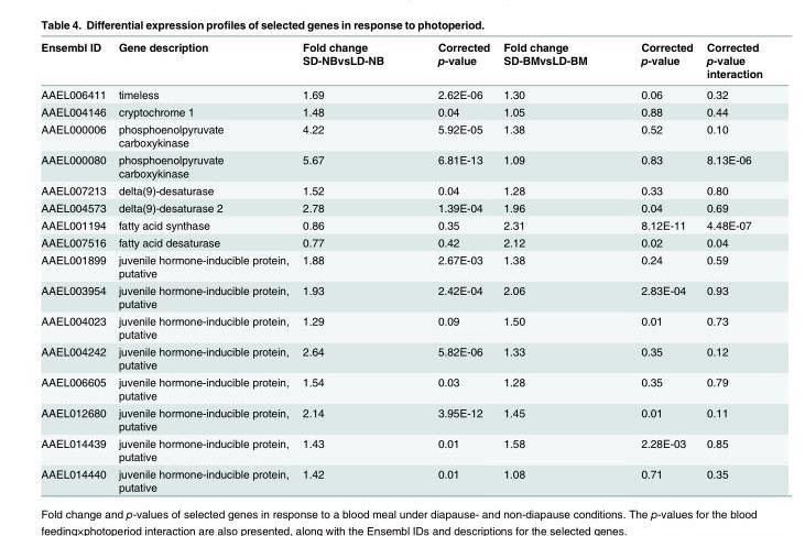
<table><thead><tr><td>Ensembl ID</td><td>Gene description</td><td>Fold change SD-NBvsLD-NB</td><td>Corrected p-value</td><td>Fold change SD-BMvsLD-BM</td><td>Corrected p-value</td><td>Corrected p-value interaction</td></tr></thead><tbody><tr><td>AAEL006411</td><td>timeless</td><td>1.69</td><td>2.62E-06</td><td>1.30</td><td>0.06</td><td>0.32</td></tr><tr><td>AAEL004146</td><td>cryptochrome 1</td><td>1.48</td><td>0.04</td><td>1.05</td><td>0.88</td><td>0.44</td></tr><tr><td>AAEL000006</td><td>phosphoenolpyruvate carboxykinase</td><td>4.22</td><td>5.92E-05</td><td>1.38</td><td>0.52</td><td>0.10</td></tr><tr><td>AAEL000080</td><td>phosphoenolpyruvate carboxykinase</td><td>5.67</td><td>6.81E-13</td><td>1.09</td><td>0.83</td><td>8.13E-06</td></tr><tr><td>AAEL007213</td><td>delta(9)-desaturase</td><td>1.52</td><td>0.04</td><td>1.28</td><td>0.33</td><td>0.80</td></tr><tr><td>AAEL004573</td><td>delta(9)-desaturase 2</td><td>2.78</td><td>1.39E-04</td><td>1.96</td><td>0.04</td><td>0.69</td></tr><tr><td>AAEL001194</td><td>fatty acid synthase</td><td>0.86</td><td>0.35</td><td>2.31</td><td>8.12E-11</td><td>4.48E-07</td></tr><tr><td>AAEL007516</td><td>fatty acid desaturase</td><td>0.77</td><td>0.42</td><td>2.12</td><td>0.02</td><td>0.04</td></tr><tr><td>AAEL001899</td><td>juvenile hormone-inducible protein, putative</td><td>1.88</td><td>2.67E-03</td><td>1.38</td><td>0.24</td><td>0.59</td></tr><tr><td>AAEL003954</td><td>juvenile hormone-inducible protein, putative</td><td>1.93</td><td>2.42E-04</td><td>2.06</td><td>2.83E-04</td><td>0.93</td></tr><tr><td>AAEL004023</td><td>juvenile hormone-inducible protein, putative</td><td>1.29</td><td>0.09</td><td>1.50</td><td>0.01</td><td>0.73</td></tr><tr><td>AAEL004242</td><td>juvenile hormone-inducible protein, putative</td><td>2.64</td><td>5.82E-06</td><td>1.33</td><td>0.35</td><td>0.12</td></tr><tr><td>AAEL006605</td><td>juvenile hormone-inducible protein, putative</td><td>1.54</td><td>0.03</td><td>1.28</td><td>0.35</td><td>0.79</td></tr><tr><td>AAEL012680</td><td>juvenile hormone-inducible protein, putative</td><td>2.14</td><td>3.95E-12</td><td>1.45</td><td>0.01</td><td>0.11</td></tr><tr><td>AAEL014439</td><td>juvenile hormone-inducible protein, putative</td><td>1.43</td><td>0.01</td><td>1.58</td><td>2.28E-03</td><td>0.85</td></tr><tr><td>AAEL014440</td><td>juvenile hormone-inducible protein, putative</td><td>1.42</td><td>0.01</td><td>1.08</td><td>0.71</td><td>0.35</td></tr></tbody></table>